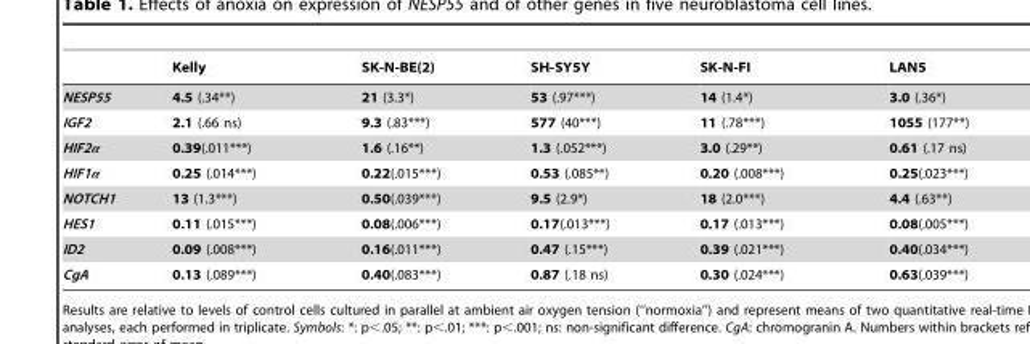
<table><thead><tr><td></td><td>Kelly</td><td>SK-N-BE(2)</td><td>SH-SY5Y</td><td>SK-N-FI</td><td>LAN5</td></tr></thead><tbody><tr><td>NESP55</td><td>4.5 (.34**)</td><td>21 (3.3*)</td><td>53 (.97***)</td><td>14 (1.4*)</td><td>3.0 (.36*)</td></tr><tr><td>IGF2</td><td>2.1 (.66 ns)</td><td>9.3 (.83***)</td><td>577 (40***)</td><td>11 (.78***)</td><td>1055 (177**)</td></tr><tr><td>HIF2α</td><td>0.39(.011***)</td><td>1.6 (.16**)</td><td>1.3 (.052***)</td><td>3.0 (.29**)</td><td>0.61 (.17 ns)</td></tr><tr><td>HIF1α</td><td>0.25 (.014***)</td><td>0.22(.015***)</td><td>0.53 (.085**)</td><td>0.20 (.008***)</td><td>0.25(.023***)</td></tr><tr><td>NOTCH1</td><td>13 (1.3***)</td><td>0.50(.039***)</td><td>9.5 (2.9*)</td><td>18 (2.0***)</td><td>4.4 (.63**)</td></tr><tr><td>HES1</td><td>0.11 (.015***)</td><td>0.08(.006***)</td><td>0.17(.013***)</td><td>0.17 (.013***)</td><td>0.08(.005***)</td></tr><tr><td>ID2</td><td>0.09 (.008***)</td><td>0.16(.011***)</td><td>0.47 (.15***)</td><td>0.39 (.021***)</td><td>0.40(.034***)</td></tr><tr><td>CgA</td><td>0.13 (.089***)</td><td>0.40(.083***)</td><td>0.87 (.18 ns)</td><td>0.30 (.024***)</td><td>0.63(.039***)</td></tr></tbody></table>